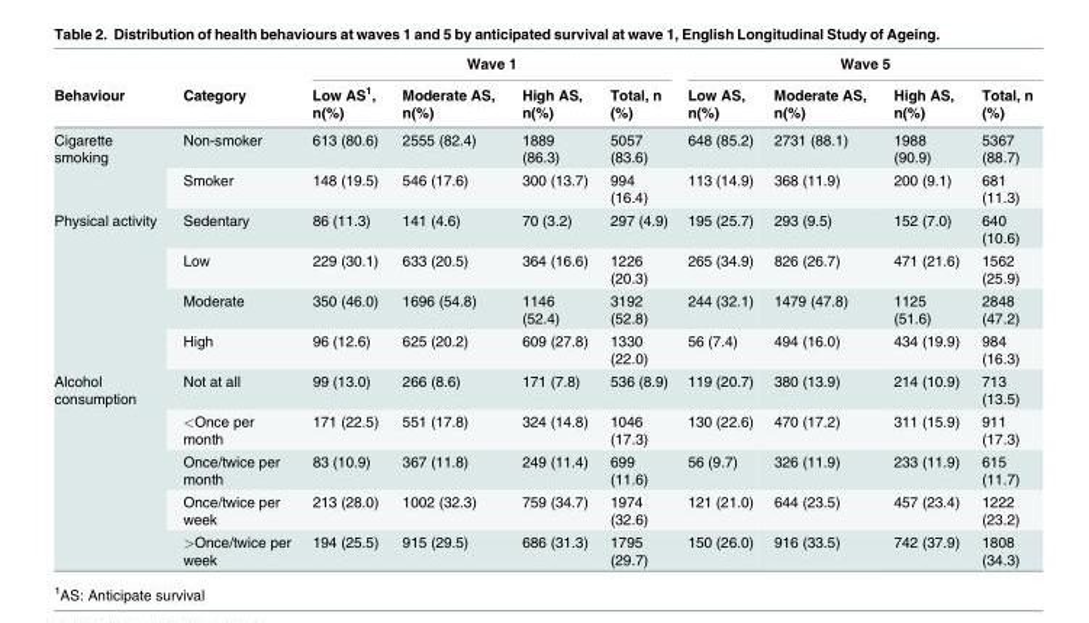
<table><thead><tr><td rowspan="2">Behaviour</td><td rowspan="2">Category</td><td colspan="4">Wave 1</td><td colspan="4">Wave 5</td></tr><tr><td>Low AS<sup>1</sup>, n(%)</td><td>Moderate AS, n(%)</td><td>High AS, n(%)</td><td>Total, n (%)</td><td>Low AS, n(%)</td><td>Moderate AS, n(%)</td><td>High AS, n(%)</td><td>Total, n (%)</td></tr></thead><tbody><tr><td rowspan="2">Cigarette smoking</td><td>Non-smoker</td><td>613 (80.6)</td><td>2555 (82.4)</td><td>1889 (86.3)</td><td>5057 (83.6)</td><td>648 (85.2)</td><td>2731 (88.1)</td><td>1988 (90.9)</td><td>5367 (88.7)</td></tr><tr><td>Smoker</td><td>148 (19.5)</td><td>546 (17.6)</td><td>300 (13.7)</td><td>994 (16.4)</td><td>113 (14.9)</td><td>368 (11.9)</td><td>200 (9.1)</td><td>681 (11.3)</td></tr><tr><td rowspan="4">Physical activity</td><td>Sedentary</td><td>86 (11.3)</td><td>141 (4.6)</td><td>70 (3.2)</td><td>297 (4.9)</td><td>195 (25.7)</td><td>293 (9.5)</td><td>152 (7.0)</td><td>640 (10.6)</td></tr><tr><td>Low</td><td>229 (30.1)</td><td>633 (20.5)</td><td>364 (16.6)</td><td>1226 (20.3)</td><td>265 (34.9)</td><td>826 (26.7)</td><td>471 (21.6)</td><td>1562 (25.9)</td></tr><tr><td>Moderate</td><td>350 (46.0)</td><td>1696 (54.8)</td><td>1146 (52.4)</td><td>3192 (52.8)</td><td>244 (32.1)</td><td>1479 (47.8)</td><td>1125 (51.6)</td><td>2848 (47.2)</td></tr><tr><td>High</td><td>96 (12.6)</td><td>625 (20.2)</td><td>609 (27.8)</td><td>1330 (22.0)</td><td>56 (7.4)</td><td>494 (16.0)</td><td>434 (19.9)</td><td>984 (16.3)</td></tr><tr><td rowspan="5">Alcohol consumption</td><td>Not at all</td><td>99 (13.0)</td><td>266 (8.6)</td><td>171 (7.8)</td><td>536 (8.9)</td><td>119 (20.7)</td><td>380 (13.9)</td><td>214 (10.9)</td><td>713 (13.5)</td></tr><tr><td>&lt;Once per month</td><td>171 (22.5)</td><td>551 (17.8)</td><td>324 (14.8)</td><td>1046 (17.3)</td><td>130 (22.6)</td><td>470 (17.2)</td><td>311 (15.9)</td><td>911 (17.3)</td></tr><tr><td>Once/twice per month</td><td>83 (10.9)</td><td>367 (11.8)</td><td>249 (11.4)</td><td>699 (11.6)</td><td>56 (9.7)</td><td>326 (11.9)</td><td>233 (11.9)</td><td>615 (11.7)</td></tr><tr><td>Once/twice per week</td><td>213 (28.0)</td><td>1002 (32.3)</td><td>759 (34.7)</td><td>1974 (32.6)</td><td>121 (21.0)</td><td>644 (23.5)</td><td>457 (23.4)</td><td>1222 (23.2)</td></tr><tr><td>&gt;Once/twice per week</td><td>194 (25.5)</td><td>915 (29.5)</td><td>686 (31.3)</td><td>1795 (29.7)</td><td>150 (26.0)</td><td>916 (33.5)</td><td>742 (37.9)</td><td>1808 (34.3)</td></tr></tbody></table>